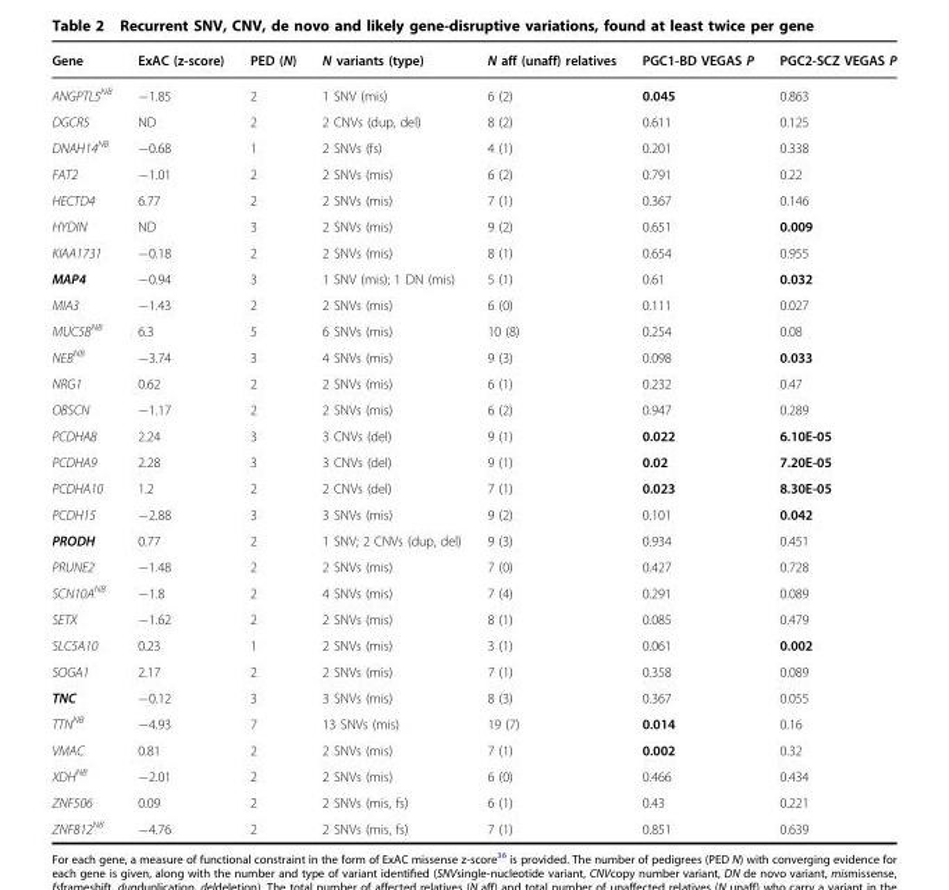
<table><thead><tr><td>Gene</td><td>ExAC (z-score)</td><td>PED (N)</td><td>N variants (type)</td><td>N aff (unaff) relatives</td><td>PGC1-BD VEGAS P</td><td>PGC2-SCZ VEGAS P</td></tr></thead><tbody><tr><td>ANGPTL5<sup>NB</sup></td><td>−1.85</td><td>2</td><td>1 SNV (mis)</td><td>6 (2)</td><td>0.045</td><td>0.863</td></tr><tr><td>DGCR5</td><td>ND</td><td>2</td><td>2 CNVs (dup, del)</td><td>8 (2)</td><td>0.611</td><td>0.125</td></tr><tr><td>DNAH14<sup>NB</sup></td><td>−0.68</td><td>1</td><td>2 SNVs (fs)</td><td>4 (1)</td><td>0.201</td><td>0.338</td></tr><tr><td>FAT2</td><td>−1.01</td><td>2</td><td>2 SNVs (mis)</td><td>6 (2)</td><td>0.791</td><td>0.22</td></tr><tr><td>HECTD4</td><td>6.77</td><td>2</td><td>2 SNVs (mis)</td><td>7 (1)</td><td>0.367</td><td>0.146</td></tr><tr><td>HYDIN</td><td>ND</td><td>3</td><td>2 SNVs (mis)</td><td>9 (2)</td><td>0.651</td><td>0.009</td></tr><tr><td>KIAA1731</td><td>−0.18</td><td>2</td><td>2 SNVs (mis)</td><td>8 (1)</td><td>0.654</td><td>0.955</td></tr><tr><td>MAP4</td><td>−0.94</td><td>3</td><td>1 SNV (mis); 1 DN (mis)</td><td>5 (1)</td><td>0.61</td><td>0.032</td></tr><tr><td>MIA3</td><td>−1.43</td><td>2</td><td>2 SNVs (mis)</td><td>6 (0)</td><td>0.111</td><td>0.027</td></tr><tr><td>MUC5B<sup>NB</sup></td><td>6.3</td><td>5</td><td>6 SNVs (mis)</td><td>10 (8)</td><td>0.254</td><td>0.08</td></tr><tr><td>NEB<sup>NB</sup></td><td>−3.74</td><td>3</td><td>4 SNVs (mis)</td><td>9 (3)</td><td>0.098</td><td>0.033</td></tr><tr><td>NRG1</td><td>0.62</td><td>2</td><td>2 SNVs (mis)</td><td>6 (1)</td><td>0.232</td><td>0.47</td></tr><tr><td>OBSCN</td><td>−1.17</td><td>2</td><td>2 SNVs (mis)</td><td>6 (2)</td><td>0.947</td><td>0.289</td></tr><tr><td>PCDHA8</td><td>2.24</td><td>3</td><td>3 CNVs (del)</td><td>9 (1)</td><td>0.022</td><td>6.10E-05</td></tr><tr><td>PCDHA9</td><td>2.28</td><td>3</td><td>3 CNVs (del)</td><td>9 (1)</td><td>0.02</td><td>7.20E-05</td></tr><tr><td>PCDHA10</td><td>1.2</td><td>2</td><td>2 CNVs (del)</td><td>7 (1)</td><td>0.023</td><td>8.30E-05</td></tr><tr><td>PCDH15</td><td>−2.88</td><td>3</td><td>3 SNVs (mis)</td><td>9 (2)</td><td>0.101</td><td>0.042</td></tr><tr><td>PRODH</td><td>0.77</td><td>2</td><td>1 SNV; 2 CNVs (dup, del)</td><td>9 (3)</td><td>0.934</td><td>0.451</td></tr><tr><td>PRUNE2</td><td>−1.48</td><td>2</td><td>2 SNVs (mis)</td><td>7 (0)</td><td>0.427</td><td>0.728</td></tr><tr><td>SCN10A<sup>NB</sup></td><td>−1.8</td><td>2</td><td>4 SNVs (mis)</td><td>7 (4)</td><td>0.291</td><td>0.089</td></tr><tr><td>SETX</td><td>−1.62</td><td>2</td><td>2 SNVs (mis)</td><td>8 (1)</td><td>0.085</td><td>0.479</td></tr><tr><td>SLC5A10</td><td>0.23</td><td>1</td><td>2 SNVs (mis)</td><td>3 (1)</td><td>0.061</td><td>0.002</td></tr><tr><td>SOGA1</td><td>2.17</td><td>2</td><td>2 SNVs (mis)</td><td>7 (1)</td><td>0.358</td><td>0.089</td></tr><tr><td>TNC</td><td>−0.12</td><td>3</td><td>3 SNVs (mis)</td><td>8 (3)</td><td>0.367</td><td>0.055</td></tr><tr><td>TTN<sup>NB</sup></td><td>−4.93</td><td>7</td><td>13 SNVs (mis)</td><td>19 (7)</td><td>0.014</td><td>0.16</td></tr><tr><td>VMAC</td><td>0.81</td><td>2</td><td>2 SNVs (mis)</td><td>7 (1)</td><td>0.002</td><td>0.32</td></tr><tr><td>XDH<sup>NB</sup></td><td>−2.01</td><td>2</td><td>2 SNVs (mis)</td><td>6 (0)</td><td>0.466</td><td>0.434</td></tr><tr><td>ZNF506</td><td>0.09</td><td>2</td><td>2 SNVs (mis, fs)</td><td>6 (1)</td><td>0.43</td><td>0.221</td></tr><tr><td>ZNF812<sup>NB</sup></td><td>−4.76</td><td>2</td><td>2 SNVs (mis, fs)</td><td>7 (1)</td><td>0.851</td><td>0.639</td></tr></tbody></table>